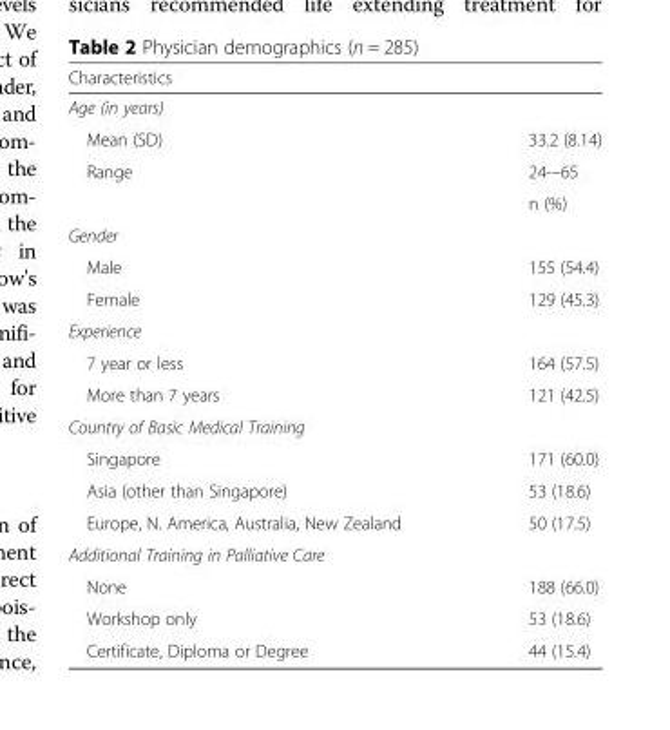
<table><thead><tr><td>Characteristics</td><td></td></tr></thead><tbody><tr><td colspan="2">Age (in years)</td></tr><tr><td>Mean (SD)</td><td>33.2 (8.14)</td></tr><tr><td rowspan="2">Range</td><td>24-–65</td></tr><tr><td>n (%)</td></tr><tr><td colspan="2">Gender</td></tr><tr><td>Male</td><td>155 (54.4)</td></tr><tr><td>Female</td><td>129 (45.3)</td></tr><tr><td colspan="2">Experience</td></tr><tr><td>7 year or less</td><td>164 (57.5)</td></tr><tr><td>More than 7 years</td><td>121 (42.5)</td></tr><tr><td colspan="2">Country of Basic Medical Training</td></tr><tr><td>Singapore</td><td>171 (60.0)</td></tr><tr><td>Asia (other than Singapore)</td><td>53 (18.6)</td></tr><tr><td>Europe, N. America, Australia, New Zealand</td><td>50 (17.5)</td></tr><tr><td colspan="2">Additional Training in Palliative Care</td></tr><tr><td>None</td><td>188 (66.0)</td></tr><tr><td>Workshop only</td><td>53 (18.6)</td></tr><tr><td>Certificate, Diploma or Degree</td><td>44 (15.4)</td></tr></tbody></table>